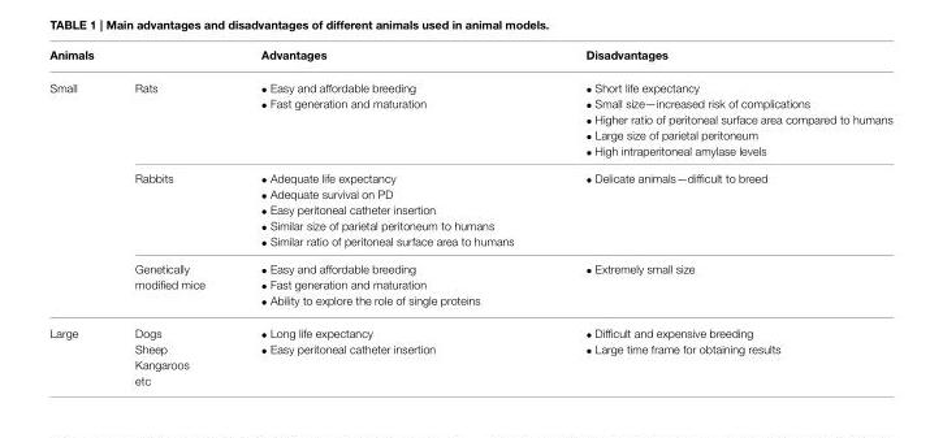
<table><thead><tr><td>Animals</td><td></td><td>Advantages</td><td>Disadvantages</td></tr></thead><tbody><tr><td rowspan="3">Small</td><td>Rats</td><td>• Easy and affordable breeding • Fast generation and maturation</td><td>• Short life expectancy • Small size—increased risk of complications • Higher ratio of peritoneal surface area compared to humans • Large size of parietal peritoneum • High intraperitoneal amylase levels</td></tr><tr><td>Rabbits</td><td>• Adequate life expectancy • Adequate survival on PD • Easy peritoneal catheter insertion • Similar size of parietal peritoneum to humans • Similar ratio of peritoneal surface area to humans</td><td>• Delicate animals—difficult to breed</td></tr><tr><td>Genetically modified mice</td><td>• Easy and affordable breeding • Fast generation and maturation • Ability to explore the role of single proteins</td><td>• Extremely small size</td></tr><tr><td>Large</td><td>Dogs Sheep Kangaroos etc</td><td>• Long life expectancy • Easy peritoneal catheter insertion</td><td>• Difficult and expensive breeding • Large time frame for obtaining results</td></tr></tbody></table>